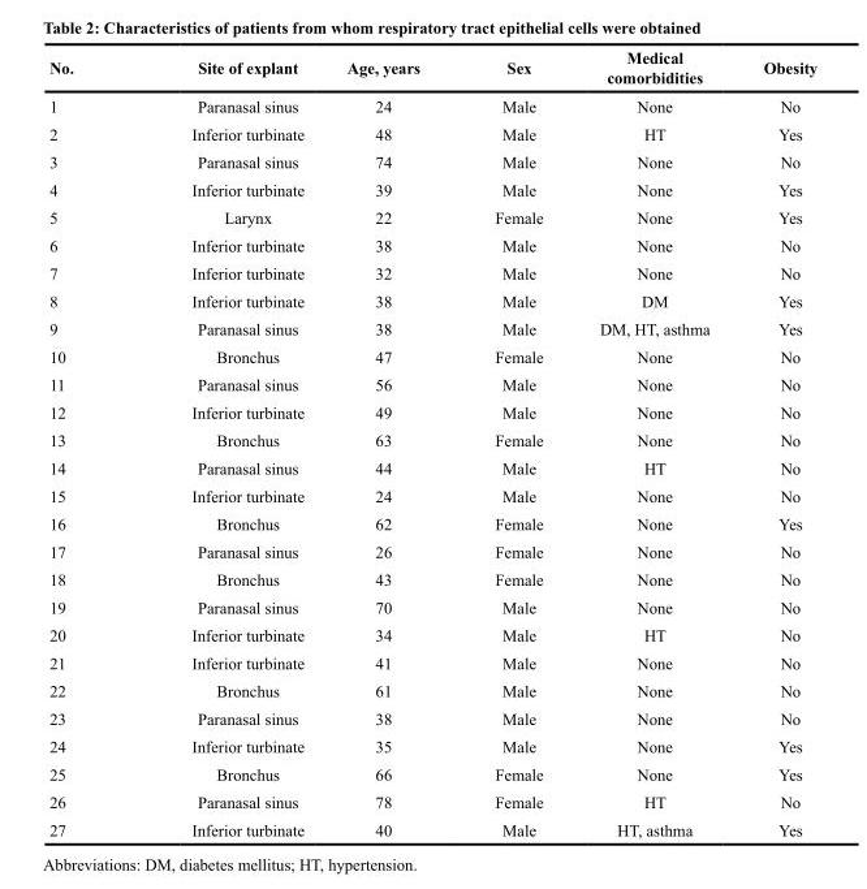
<table><thead><tr><td>No.</td><td>Site of explant</td><td>Age, years</td><td>Sex</td><td>Medical comorbidities</td><td>Obesity</td></tr></thead><tbody><tr><td>1</td><td>Paranasal sinus</td><td>24</td><td>Male</td><td>None</td><td>No</td></tr><tr><td>2</td><td>Inferior turbinate</td><td>48</td><td>Male</td><td>HT</td><td>Yes</td></tr><tr><td>3</td><td>Paranasal sinus</td><td>74</td><td>Male</td><td>None</td><td>No</td></tr><tr><td>4</td><td>Inferior turbinate</td><td>39</td><td>Male</td><td>None</td><td>Yes</td></tr><tr><td>5</td><td>Larynx</td><td>22</td><td>Female</td><td>None</td><td>Yes</td></tr><tr><td>6</td><td>Inferior turbinate</td><td>38</td><td>Male</td><td>None</td><td>No</td></tr><tr><td>7</td><td>Inferior turbinate</td><td>32</td><td>Male</td><td>None</td><td>No</td></tr><tr><td>8</td><td>Inferior turbinate</td><td>38</td><td>Male</td><td>DM</td><td>Yes</td></tr><tr><td>9</td><td>Paranasal sinus</td><td>38</td><td>Male</td><td>DM, HT, asthma</td><td>Yes</td></tr><tr><td>10</td><td>Bronchus</td><td>47</td><td>Female</td><td>None</td><td>No</td></tr><tr><td>11</td><td>Paranasal sinus</td><td>56</td><td>Male</td><td>None</td><td>No</td></tr><tr><td>12</td><td>Inferior turbinate</td><td>49</td><td>Male</td><td>None</td><td>No</td></tr><tr><td>13</td><td>Bronchus</td><td>63</td><td>Female</td><td>None</td><td>No</td></tr><tr><td>14</td><td>Paranasal sinus</td><td>44</td><td>Male</td><td>HT</td><td>No</td></tr><tr><td>15</td><td>Inferior turbinate</td><td>24</td><td>Male</td><td>None</td><td>No</td></tr><tr><td>16</td><td>Bronchus</td><td>62</td><td>Female</td><td>None</td><td>Yes</td></tr><tr><td>17</td><td>Paranasal sinus</td><td>26</td><td>Female</td><td>None</td><td>No</td></tr><tr><td>18</td><td>Bronchus</td><td>43</td><td>Female</td><td>None</td><td>No</td></tr><tr><td>19</td><td>Paranasal sinus</td><td>70</td><td>Male</td><td>None</td><td>No</td></tr><tr><td>20</td><td>Inferior turbinate</td><td>34</td><td>Male</td><td>HT</td><td>No</td></tr><tr><td>21</td><td>Inferior turbinate</td><td>41</td><td>Male</td><td>None</td><td>No</td></tr><tr><td>22</td><td>Bronchus</td><td>61</td><td>Male</td><td>None</td><td>No</td></tr><tr><td>23</td><td>Paranasal sinus</td><td>38</td><td>Male</td><td>None</td><td>No</td></tr><tr><td>24</td><td>Inferior turbinate</td><td>35</td><td>Male</td><td>None</td><td>Yes</td></tr><tr><td>25</td><td>Bronchus</td><td>66</td><td>Female</td><td>None</td><td>Yes</td></tr><tr><td>26</td><td>Paranasal sinus</td><td>78</td><td>Female</td><td>HT</td><td>No</td></tr><tr><td>27</td><td>Inferior turbinate</td><td>40</td><td>Male</td><td>HT, asthma</td><td>Yes</td></tr></tbody></table>